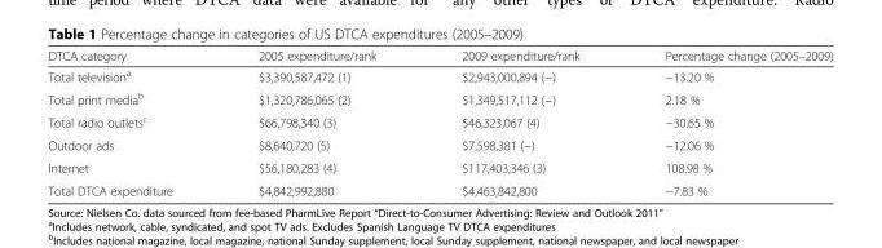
<table><thead><tr><td>DTCA category</td><td>2005 expenditure/rank</td><td>2009 expenditure/rank</td><td>Percentage change (2005–2009)</td></tr></thead><tbody><tr><td>Total television<sup>a</sup></td><td>$3,390,587,472 (1)</td><td>$2,943,000,894 (−)</td><td>−13.20 %</td></tr><tr><td>Total print media<sup>b</sup></td><td>$1,320,786,065 (2)</td><td>$1,349,517,112 (−)</td><td>2.18 %</td></tr><tr><td>Total radio outlets<sup>c</sup></td><td>$66,798,340 (3)</td><td>$46,323,067 (4)</td><td>−30.65 %</td></tr><tr><td>Outdoor ads</td><td>$8,640,720 (5)</td><td>$7,598,381 (−)</td><td>−12.06 %</td></tr><tr><td>Internet</td><td>$56,180,283 (4)</td><td>$117,403,346 (3)</td><td>108.98 %</td></tr><tr><td>Total DTCA expenditure</td><td>$4,842,992,880</td><td>$4,463,842,800</td><td>−7.83 %</td></tr></tbody></table>